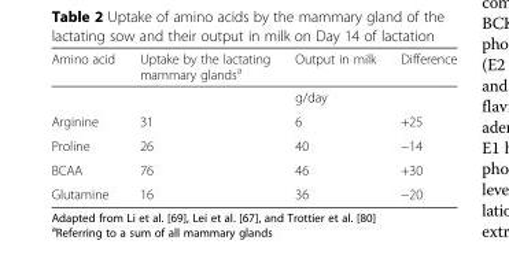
<table><thead><tr><td>Amino acid</td><td>Uptake by the lactating mammary glands<sup>a</sup></td><td>Output in milk</td><td>Difference</td></tr></thead><tbody><tr><td></td><td></td><td>g/day</td><td></td></tr><tr><td>Arginine</td><td>31</td><td>6</td><td>+25</td></tr><tr><td>Proline</td><td>26</td><td>40</td><td>−14</td></tr><tr><td>BCAA</td><td>76</td><td>46</td><td>+30</td></tr><tr><td>Glutamine</td><td>16</td><td>36</td><td>−20</td></tr></tbody></table>